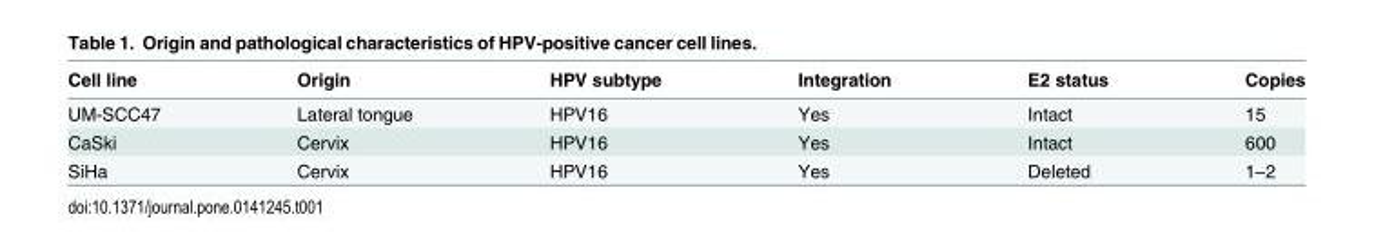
<table><thead><tr><td>Cell line</td><td>Origin</td><td>HPV subtype</td><td>Integration</td><td>E2 status</td><td>Copies</td></tr></thead><tbody><tr><td>UM-SCC47</td><td>Lateral tongue</td><td>HPV16</td><td>Yes</td><td>Intact</td><td>15</td></tr><tr><td>CaSki</td><td>Cervix</td><td>HPV16</td><td>Yes</td><td>Intact</td><td>600</td></tr><tr><td>SiHa</td><td>Cervix</td><td>HPV16</td><td>Yes</td><td>Deleted</td><td>1–2</td></tr></tbody></table>